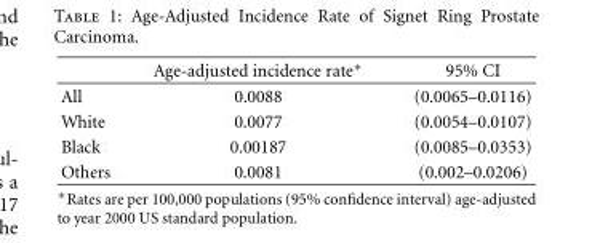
<table><thead><tr><td></td><td>Age-adjusted incidence rate∗</td><td>95% CI</td></tr></thead><tbody><tr><td>All</td><td>0.0088</td><td>(0.0065–0.0116)</td></tr><tr><td>White</td><td>0.0077</td><td>(0.0054–0.0107)</td></tr><tr><td>Black</td><td>0.00187</td><td>(0.0085–0.0353)</td></tr><tr><td>Others</td><td>0.0081</td><td>(0.002–0.0206)</td></tr></tbody></table>